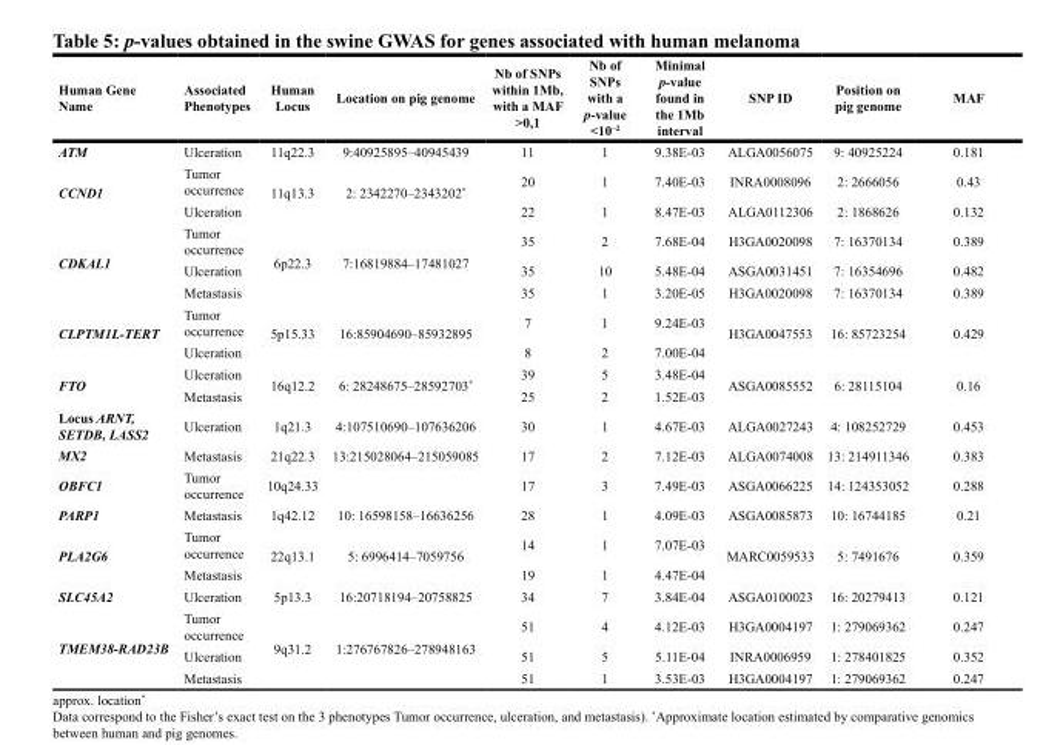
<table><thead><tr><td>Human Gene Name</td><td>Associated Phenotypes</td><td>Human Locus</td><td>Location on pig genome</td><td>Nb of SNPs within 1Mb, with a MAF &gt;0,1</td><td>Nb of SNPs with a p-value &lt;10<sup>–2</sup></td><td>Minimal p-value found in the 1Mb interval</td><td>SNP ID</td><td>Position on pig genome</td><td>MAF</td></tr></thead><tbody><tr><td>ATM</td><td>Ulceration</td><td>11q22.3</td><td>9:40925895–40945439</td><td>11</td><td>1</td><td>9.38E-03</td><td>ALGA0056075</td><td>9: 40925224</td><td>0.181</td></tr><tr><td rowspan="2">CCND1</td><td>Tumor occurrence</td><td rowspan="2">11q13.3</td><td rowspan="2">2: 2342270–2343202*</td><td>20</td><td>1</td><td>7.40E-03</td><td>INRA0008096</td><td>2: 2666056</td><td>0.43</td></tr><tr><td>Ulceration</td><td>22</td><td>1</td><td>8.47E-03</td><td>ALGA0112306</td><td>2: 1868626</td><td>0.132</td></tr><tr><td rowspan="3">CDKAL1</td><td>Tumor occurrence</td><td rowspan="3">6p22.3</td><td rowspan="3">7:16819884–17481027</td><td>35</td><td>2</td><td>7.68E-04</td><td>H3GA0020098</td><td>7: 16370134</td><td>0.389</td></tr><tr><td>Ulceration</td><td>35</td><td>10</td><td>5.48E-04</td><td>ASGA0031451</td><td>7: 16354696</td><td>0.482</td></tr><tr><td>Metastasis</td><td>35</td><td>1</td><td>3.20E-05</td><td>H3GA0020098</td><td>7: 16370134</td><td>0.389</td></tr><tr><td rowspan="2">CLPTM1L-TERT</td><td>Tumor occurrence</td><td rowspan="2">5p15.33</td><td rowspan="2">16:85904690–85932895</td><td>7</td><td>1</td><td>9.24E-03</td><td rowspan="2">H3GA0047553</td><td rowspan="2">16: 85723254</td><td rowspan="2">0.429</td></tr><tr><td>Ulceration</td><td>8</td><td>2</td><td>7.00E-04</td></tr><tr><td rowspan="2">FTO</td><td>Ulceration</td><td rowspan="2">16q12.2</td><td rowspan="2">6: 28248675–28592703*</td><td>39</td><td>5</td><td>3.48E-04</td><td rowspan="2">ASGA0085552</td><td rowspan="2">6: 28115104</td><td rowspan="2">0.16</td></tr><tr><td>Metastasis</td><td>25</td><td>2</td><td>1.52E-03</td></tr><tr><td>Locus ARNT, SETDB, LASS2</td><td>Ulceration</td><td>1q21.3</td><td>4:107510690–107636206</td><td>30</td><td>1</td><td>4.67E-03</td><td>ALGA0027243</td><td>4: 108252729</td><td>0.453</td></tr><tr><td>MX2</td><td>Metastasis</td><td>21q22.3</td><td>13:215028064–215059085</td><td>17</td><td>2</td><td>7.12E-03</td><td>ALGA0074008</td><td>13: 214911346</td><td>0.383</td></tr><tr><td>OBFC1</td><td>Tumor occurrence</td><td>10q24.33</td><td></td><td>17</td><td>3</td><td>7.49E-03</td><td>ASGA0066225</td><td>14: 124353052</td><td>0.288</td></tr><tr><td>PARP1</td><td>Metastasis</td><td>1q42.12</td><td>10: 16598158–16636256</td><td>28</td><td>1</td><td>4.09E-03</td><td>ASGA0085873</td><td>10: 16744185</td><td>0.21</td></tr><tr><td rowspan="2">PLA2G6</td><td>Tumor occurrence</td><td rowspan="2">22q13.1</td><td rowspan="2">5: 6996414–7059756</td><td>14</td><td>1</td><td>7.07E-03</td><td rowspan="2">MARC0059533</td><td rowspan="2">5: 7491676</td><td rowspan="2">0.359</td></tr><tr><td>Metastasis</td><td>19</td><td>1</td><td>4.47E-04</td></tr><tr><td>SLC45A2</td><td>Ulceration</td><td>5p13.3</td><td>16:20718194–20758825</td><td>34</td><td>7</td><td>3.84E-04</td><td>ASGA0100023</td><td>16: 20279413</td><td>0.121</td></tr><tr><td rowspan="3">TMEM38-RAD23B</td><td>Tumor occurrence</td><td rowspan="3">9q31.2</td><td rowspan="3">1:276767826–278948163</td><td>51</td><td>4</td><td>4.12E-03</td><td>H3GA0004197</td><td>1: 279069362</td><td>0.247</td></tr><tr><td>Ulceration</td><td>51</td><td>5</td><td>5.11E-04</td><td>INRA0006959</td><td>1: 278401825</td><td>0.352</td></tr><tr><td>Metastasis</td><td>51</td><td>1</td><td>3.53E-03</td><td>H3GA0004197</td><td>1: 279069362</td><td>0.247</td></tr></tbody></table>